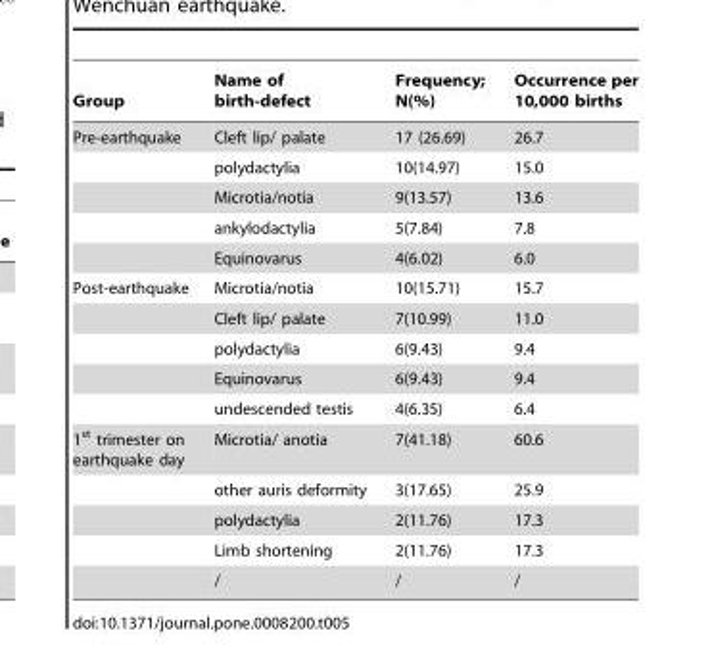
<table><thead><tr><td>Group</td><td>Name of birth-defect</td><td>Frequency; N(%)</td><td>Occurrence per 10,000 births</td></tr></thead><tbody><tr><td rowspan="5">Pre-earthquake</td><td>Cleft lip/ palate</td><td>17 (26.69)</td><td>26.7</td></tr><tr><td>polydactylia</td><td>10(14.97)</td><td>15.0</td></tr><tr><td>Microtia/notia</td><td>9(13.57)</td><td>13.6</td></tr><tr><td>ankylodactylia</td><td>5(7.84)</td><td>7.8</td></tr><tr><td>Equinovarus</td><td>4(6.02)</td><td>6.0</td></tr><tr><td rowspan="5">Post-earthquake</td><td>Microtia/notia</td><td>10(15.71)</td><td>15.7</td></tr><tr><td>Cleft lip/ palate</td><td>7(10.99)</td><td>11.0</td></tr><tr><td>polydactylia</td><td>6(9.43)</td><td>9.4</td></tr><tr><td>Equinovarus</td><td>6(9.43)</td><td>9.4</td></tr><tr><td>undescended testis</td><td>4(6.35)</td><td>6.4</td></tr><tr><td rowspan="5">1<sup>st</sup> trimester on earthquake day</td><td>Microtia/ anotia</td><td>7(41.18)</td><td>60.6</td></tr><tr><td>other auris deformity</td><td>3(17.65)</td><td>25.9</td></tr><tr><td>polydactylia</td><td>2(11.76)</td><td>17.3</td></tr><tr><td>Limb shortening</td><td>2(11.76)</td><td>17.3</td></tr><tr><td>/</td><td>/</td><td>/</td></tr></tbody></table>